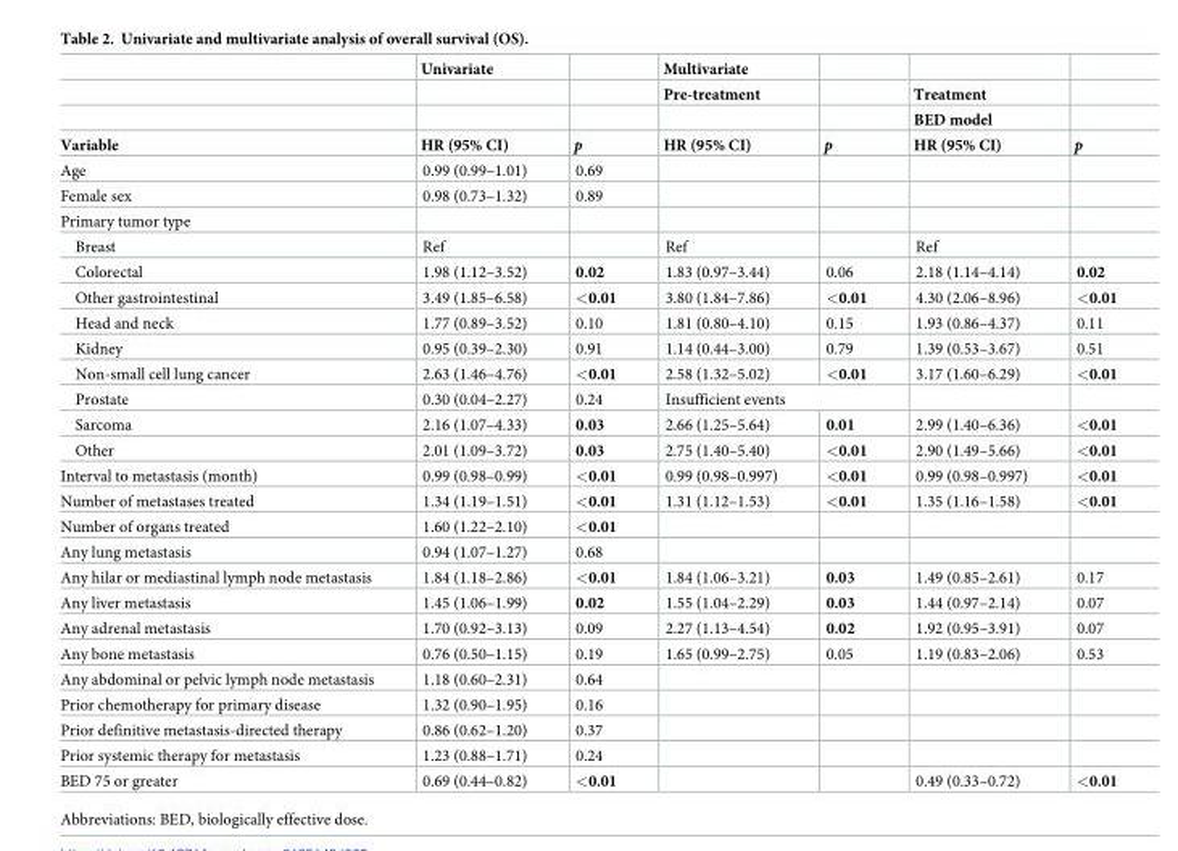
<table><thead><tr><td rowspan="4">Variable</td><td rowspan="4">Univariate HR (95% CI)</td><td rowspan="4">p</td><td rowspan="4">Multivariate Pre-treatment HR (95% CI)</td><td rowspan="4">p</td><td rowspan="4">Treatment BED model HR (95% CI)</td><td rowspan="4">p</td></tr><tr></tr><tr></tr><tr></tr></thead><tbody><tr><td>Age</td><td>0.99 (0.99–1.01)</td><td>0.69</td><td></td><td></td><td></td><td></td></tr><tr><td>Female sex</td><td>0.98 (0.73–1.32)</td><td>0.89</td><td></td><td></td><td></td><td></td></tr><tr><td colspan="7">Primary tumor type</td></tr><tr><td>Breast</td><td>Ref</td><td></td><td>Ref</td><td></td><td>Ref</td><td></td></tr><tr><td>Colorectal</td><td>1.98 (1.12–3.52)</td><td>0.02</td><td>1.83 (0.97–3.44)</td><td>0.06</td><td>2.18 (1.14–4.14)</td><td>0.02</td></tr><tr><td>Other gastrointestinal</td><td>3.49 (1.85–6.58)</td><td>&lt;0.01</td><td>3.80 (1.84–7.86)</td><td>&lt;0.01</td><td>4.30 (2.06–8.96)</td><td>&lt;0.01</td></tr><tr><td>Head and neck</td><td>1.77 (0.89–3.52)</td><td>0.10</td><td>1.81 (0.80–4.10)</td><td>0.15</td><td>1.93 (0.86–4.37)</td><td>0.11</td></tr><tr><td>Kidney</td><td>0.95 (0.39–2.30)</td><td>0.91</td><td>1.14 (0.44–3.00)</td><td>0.79</td><td>1.39 (0.53–3.67)</td><td>0.51</td></tr><tr><td>Non-small cell lung cancer</td><td>2.63 (1.46–4.76)</td><td>&lt;0.01</td><td>2.58 (1.32–5.02)</td><td>&lt;0.01</td><td>3.17 (1.60–6.29)</td><td>&lt;0.01</td></tr><tr><td>Prostate</td><td>0.30 (0.04–2.27)</td><td>0.24</td><td colspan="2">Insufficient events</td><td></td><td></td></tr><tr><td>Sarcoma</td><td>2.16 (1.07–4.33)</td><td>0.03</td><td>2.66 (1.25–5.64)</td><td>0.01</td><td>2.99 (1.40–6.36)</td><td>&lt;0.01</td></tr><tr><td>Other</td><td>2.01 (1.09–3.72)</td><td>0.03</td><td>2.75 (1.40–5.40)</td><td>&lt;0.01</td><td>2.90 (1.49–5.66)</td><td>&lt;0.01</td></tr><tr><td>Interval to metastasis (month)</td><td>0.99 (0.98–0.99)</td><td>&lt;0.01</td><td>0.99 (0.98–0.997)</td><td>&lt;0.01</td><td>0.99 (0.98–0.997)</td><td>&lt;0.01</td></tr><tr><td>Number of metastases treated</td><td>1.34 (1.19–1.51)</td><td>&lt;0.01</td><td>1.31 (1.12–1.53)</td><td>&lt;0.01</td><td>1.35 (1.16–1.58)</td><td>&lt;0.01</td></tr><tr><td>Number of organs treated</td><td>1.60 (1.22–2.10)</td><td>&lt;0.01</td><td></td><td></td><td></td><td></td></tr><tr><td>Any lung metastasis</td><td>0.94 (1.07–1.27)</td><td>0.68</td><td></td><td></td><td></td><td></td></tr><tr><td>Any hilar or mediastinal lymph node metastasis</td><td>1.84 (1.18–2.86)</td><td>&lt;0.01</td><td>1.84 (1.06–3.21)</td><td>0.03</td><td>1.49 (0.85–2.61)</td><td>0.17</td></tr><tr><td>Any liver metastasis</td><td>1.45 (1.06–1.99)</td><td>0.02</td><td>1.55 (1.04–2.29)</td><td>0.03</td><td>1.44 (0.97–2.14)</td><td>0.07</td></tr><tr><td>Any adrenal metastasis</td><td>1.70 (0.92–3.13)</td><td>0.09</td><td>2.27 (1.13–4.54)</td><td>0.02</td><td>1.92 (0.95–3.91)</td><td>0.07</td></tr><tr><td>Any bone metastasis</td><td>0.76 (0.50–1.15)</td><td>0.19</td><td>1.65 (0.99–2.75)</td><td>0.05</td><td>1.19 (0.83–2.06)</td><td>0.53</td></tr><tr><td>Any abdominal or pelvic lymph node metastasis</td><td>1.18 (0.60–2.31)</td><td>0.64</td><td></td><td></td><td></td><td></td></tr><tr><td>Prior chemotherapy for primary disease</td><td>1.32 (0.90–1.95)</td><td>0.16</td><td></td><td></td><td></td><td></td></tr><tr><td>Prior definitive metastasis-directed therapy</td><td>0.86 (0.62–1.20)</td><td>0.37</td><td></td><td></td><td></td><td></td></tr><tr><td>Prior systemic therapy for metastasis</td><td>1.23 (0.88–1.71)</td><td>0.24</td><td></td><td></td><td></td><td></td></tr><tr><td>BED 75 or greater</td><td>0.69 (0.44–0.82)</td><td>&lt;0.01</td><td></td><td></td><td>0.49 (0.33–0.72)</td><td>&lt;0.01</td></tr></tbody></table>